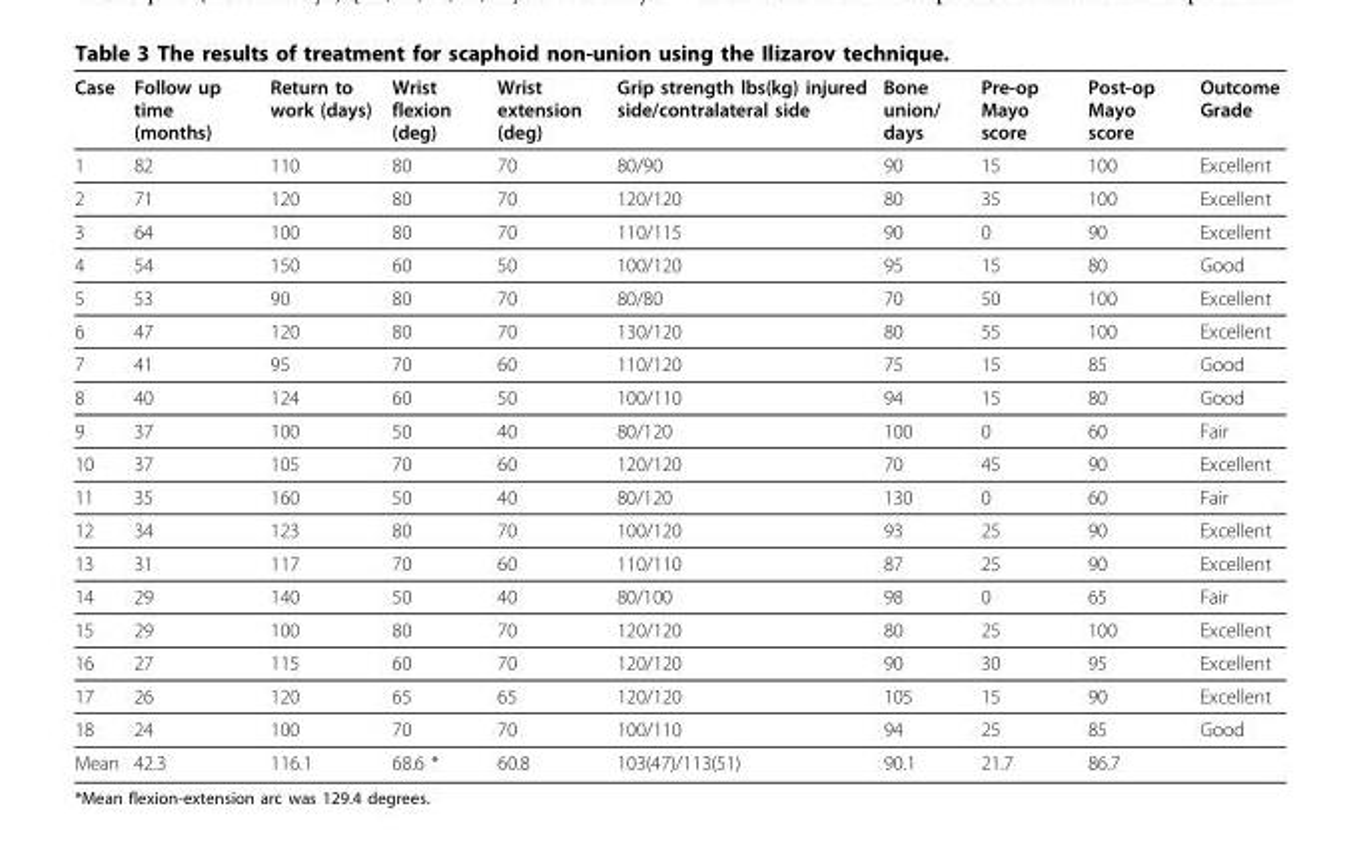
<table><thead><tr><td>Case</td><td>Follow up time (months)</td><td>Return to work (days)</td><td>Wrist flexion (deg)</td><td>Wrist extension (deg)</td><td>Grip strength lbs(kg) injured side/contralateral side</td><td>Bone union/ days</td><td>Pre-op Mayo score</td><td>Post-op Mayo score</td><td>Outcome Grade</td></tr></thead><tbody><tr><td>1</td><td>82</td><td>110</td><td>80</td><td>70</td><td>80/90</td><td>90</td><td>15</td><td>100</td><td>Excellent</td></tr><tr><td>2</td><td>71</td><td>120</td><td>80</td><td>70</td><td>120/120</td><td>80</td><td>35</td><td>100</td><td>Excellent</td></tr><tr><td>3</td><td>64</td><td>100</td><td>80</td><td>70</td><td>110/115</td><td>90</td><td>0</td><td>90</td><td>Excellent</td></tr><tr><td>4</td><td>54</td><td>150</td><td>60</td><td>50</td><td>100/120</td><td>95</td><td>15</td><td>80</td><td>Good</td></tr><tr><td>5</td><td>53</td><td>90</td><td>80</td><td>70</td><td>80/80</td><td>70</td><td>50</td><td>100</td><td>Excellent</td></tr><tr><td>6</td><td>47</td><td>120</td><td>80</td><td>70</td><td>130/120</td><td>80</td><td>55</td><td>100</td><td>Excellent</td></tr><tr><td>7</td><td>41</td><td>95</td><td>70</td><td>60</td><td>110/120</td><td>75</td><td>15</td><td>85</td><td>Good</td></tr><tr><td>8</td><td>40</td><td>124</td><td>60</td><td>50</td><td>100/110</td><td>94</td><td>15</td><td>80</td><td>Good</td></tr><tr><td>9</td><td>37</td><td>100</td><td>50</td><td>40</td><td>80/120</td><td>100</td><td>0</td><td>60</td><td>Fair</td></tr><tr><td>10</td><td>37</td><td>105</td><td>70</td><td>60</td><td>120/120</td><td>70</td><td>45</td><td>90</td><td>Excellent</td></tr><tr><td>11</td><td>35</td><td>160</td><td>50</td><td>40</td><td>80/120</td><td>130</td><td>0</td><td>60</td><td>Fair</td></tr><tr><td>12</td><td>34</td><td>123</td><td>80</td><td>70</td><td>100/120</td><td>93</td><td>25</td><td>90</td><td>Excellent</td></tr><tr><td>13</td><td>31</td><td>117</td><td>70</td><td>60</td><td>110/110</td><td>87</td><td>25</td><td>90</td><td>Excellent</td></tr><tr><td>14</td><td>29</td><td>140</td><td>50</td><td>40</td><td>80/100</td><td>98</td><td>0</td><td>65</td><td>Fair</td></tr><tr><td>15</td><td>29</td><td>100</td><td>80</td><td>70</td><td>120/120</td><td>80</td><td>25</td><td>100</td><td>Excellent</td></tr><tr><td>16</td><td>27</td><td>115</td><td>60</td><td>70</td><td>120/120</td><td>90</td><td>30</td><td>95</td><td>Excellent</td></tr><tr><td>17</td><td>26</td><td>120</td><td>65</td><td>65</td><td>120/120</td><td>105</td><td>15</td><td>90</td><td>Excellent</td></tr><tr><td>18</td><td>24</td><td>100</td><td>70</td><td>70</td><td>100/110</td><td>94</td><td>25</td><td>85</td><td>Good</td></tr><tr><td>Mean</td><td>42.3</td><td>116.1</td><td>68.6 *</td><td>60.8</td><td>103(47)/113(51)</td><td>90.1</td><td>21.7</td><td>86.7</td><td></td></tr></tbody></table>